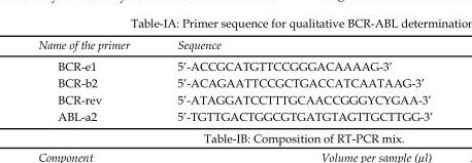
<table><thead><tr><td>Name of the primer</td><td>Sequence</td></tr></thead><tbody><tr><td>BCR-e1</td><td>5’-ACCGCATGTTCCGGGACAAAAG-3’</td></tr><tr><td>BCR-b2</td><td>5’-ACAGAATTCCGCTGACCATCAATAAG-3’</td></tr><tr><td>BCR-rev</td><td>5’-ATAGGATCCTTTGCAACCGGGYCYGAA-3’</td></tr><tr><td>ABL-a2</td><td>5’-TGTTGACTGGCGTGATGTAGTTGCTTGG-3’</td></tr></tbody></table>